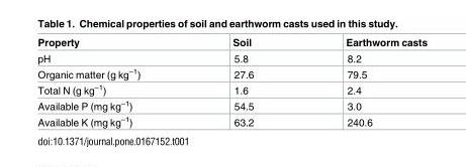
<table><thead><tr><td>Property</td><td>Soil</td><td>Earthworm casts</td></tr></thead><tbody><tr><td>pH</td><td>5.8</td><td>8.2</td></tr><tr><td>Organic matter (g kg<sup>–1</sup>)</td><td>27.6</td><td>79.5</td></tr><tr><td>Total N (g kg<sup>–1</sup>)</td><td>1.6</td><td>2.4</td></tr><tr><td>Available P (mg kg<sup>–1</sup>)</td><td>54.5</td><td>3.0</td></tr><tr><td>Available K (mg kg<sup>–1</sup>)</td><td>63.2</td><td>240.6</td></tr></tbody></table>